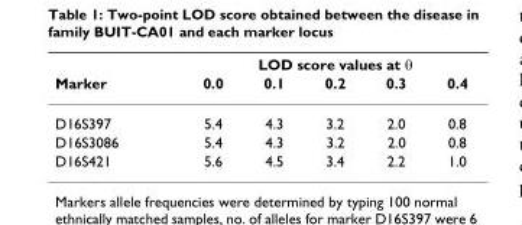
<table><thead><tr><td rowspan="2">Marker</td><td colspan="5">LOD score values at θ</td></tr><tr><td>0.0</td><td>0.1</td><td>0.2</td><td>0.3</td><td>0.4</td></tr></thead><tbody><tr><td>D16S397</td><td>5.4</td><td>4.3</td><td>3.2</td><td>2.0</td><td>0.8</td></tr><tr><td>D16S3086</td><td>5.4</td><td>4.3</td><td>3.2</td><td>2.0</td><td>0.8</td></tr><tr><td>D16S421</td><td>5.6</td><td>4.5</td><td>3.4</td><td>2.2</td><td>1.0</td></tr></tbody></table>